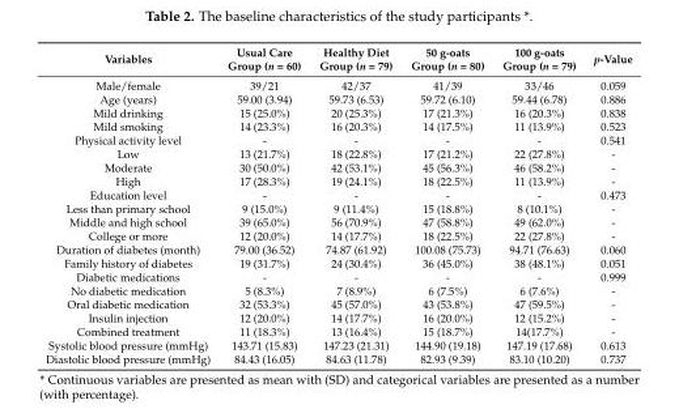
<table><thead><tr><td>Variables</td><td>Usual Care Group (n = 60)</td><td>Healthy Diet Group (n = 79)</td><td>50 g-oats Group (n = 80)</td><td>100 g-oats Group (n = 79)</td><td>p-Value</td></tr></thead><tbody><tr><td>Male/female</td><td>39/21</td><td>42/37</td><td>41/39</td><td>33/46</td><td>0.059</td></tr><tr><td>Age (years)</td><td>59.00 (3.94)</td><td>59.73 (6.53)</td><td>59.72 (6.10)</td><td>59.44 (6.78)</td><td>0.886</td></tr><tr><td>Mild drinking</td><td>15 (25.0%)</td><td>20 (25.3%)</td><td>17 (21.3%)</td><td>16 (20.3%)</td><td>0.838</td></tr><tr><td>Mild smoking</td><td>14 (23.3%)</td><td>16 (20.3%)</td><td>14 (17.5%)</td><td>11 (13.9%)</td><td>0.523</td></tr><tr><td>Physical activity level</td><td>-</td><td>-</td><td>-</td><td>-</td><td>0.541</td></tr><tr><td>Low</td><td>13 (21.7%)</td><td>18 (22.8%)</td><td>17 (21.2%)</td><td>22 (27.8%)</td><td>-</td></tr><tr><td>Moderate</td><td>30 (50.0%)</td><td>42 (53.1%)</td><td>45 (56.3%)</td><td>46 (58.2%)</td><td>-</td></tr><tr><td>High</td><td>17 (28.3%)</td><td>19 (24.1%)</td><td>18 (22.5%)</td><td>11 (13.9%)</td><td>-</td></tr><tr><td>Education level</td><td>-</td><td>-</td><td>-</td><td>-</td><td>0.473</td></tr><tr><td>Less than primary school</td><td>9 (15.0%)</td><td>9 (11.4%)</td><td>15 (18.8%)</td><td>8 (10.1%)</td><td>-</td></tr><tr><td>Middle and high school</td><td>39 (65.0%)</td><td>56 (70.9%)</td><td>47 (58.8%)</td><td>49 (62.0%)</td><td>-</td></tr><tr><td>College or more</td><td>12 (20.0%)</td><td>14 (17.7%)</td><td>18 (22.5%)</td><td>22 (27.8%)</td><td>-</td></tr><tr><td>Duration of diabetes (month)</td><td>79.00 (36.52)</td><td>74.87 (61.92)</td><td>100.08 (75.73)</td><td>94.71 (76.63)</td><td>0.060</td></tr><tr><td>Family history of diabetes</td><td>19 (31.7%)</td><td>24 (30.4%)</td><td>36 (45.0%)</td><td>38 (48.1%)</td><td>0.051</td></tr><tr><td>Diabetic medications</td><td>-</td><td>-</td><td>-</td><td>-</td><td>0.999</td></tr><tr><td>No diabetic medication</td><td>5 (8.3%)</td><td>7 (8.9%)</td><td>6 (7.5%)</td><td>6 (7.6%)</td><td>-</td></tr><tr><td>Oral diabetic medication</td><td>32 (53.3%)</td><td>45 (57.0%)</td><td>43 (53.8%)</td><td>47 (59.5%)</td><td>-</td></tr><tr><td>Insulin injection</td><td>12 (20.0%)</td><td>14 (17.7%)</td><td>16 (20.0%)</td><td>12 (15.2%)</td><td>-</td></tr><tr><td>Combined treatment</td><td>11 (18.3%)</td><td>13 (16.4%)</td><td>15 (18.7%)</td><td>14(17.7%)</td><td>-</td></tr><tr><td>Systolic blood pressure (mmHg)</td><td>143.71 (15.83)</td><td>147.23 (21.31)</td><td>144.90 (19.18)</td><td>147.19 (17.68)</td><td>0.613</td></tr><tr><td>Diastolic blood pressure (mmHg)</td><td>84.43 (16.05)</td><td>84.63 (11.78)</td><td>82.93 (9.39)</td><td>83.10 (10.20)</td><td>0.737</td></tr></tbody></table>